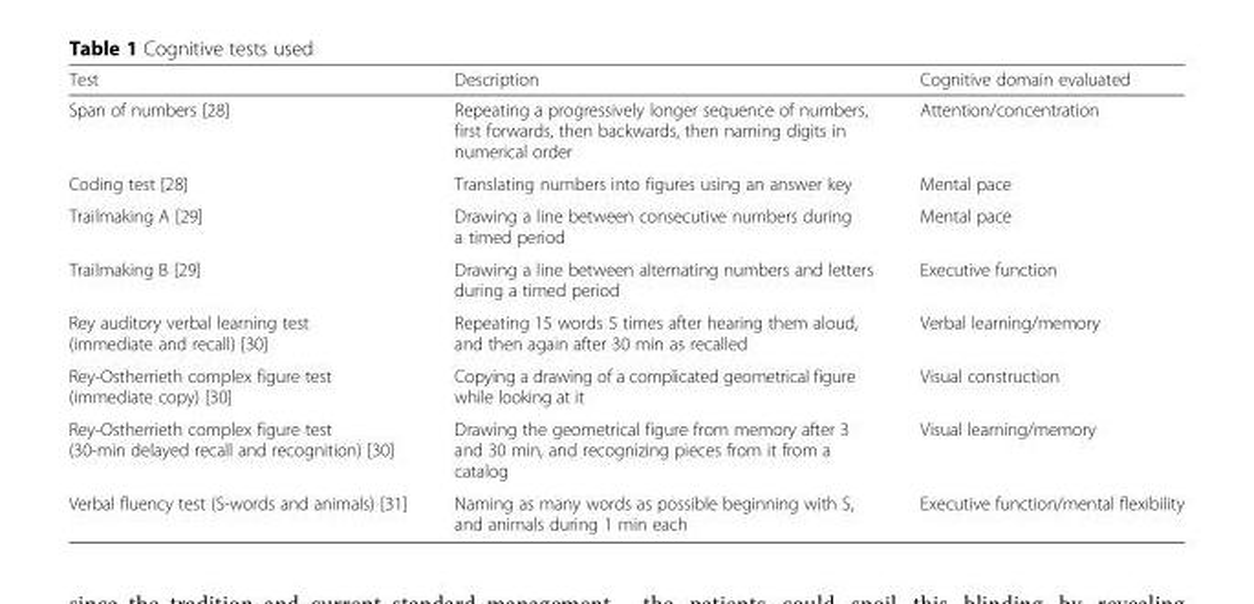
<table><thead><tr><td>Test</td><td>Description</td><td>Cognitive domain evaluated</td></tr></thead><tbody><tr><td>Span of numbers [28]</td><td>Repeating a progressively longer sequence of numbers, first forwards, then backwards, then naming digits in numerical order</td><td>Attention/concentration</td></tr><tr><td>Coding test [28]</td><td>Translating numbers into figures using an answer key</td><td>Mental pace</td></tr><tr><td>Trailmaking A [29]</td><td>Drawing a line between consecutive numbers during a timed period</td><td>Mental pace</td></tr><tr><td>Trailmaking B [29]</td><td>Drawing a line between alternating numbers and letters during a timed period</td><td>Executive function</td></tr><tr><td>Rey auditory verbal learning test (immediate and recall) [30]</td><td>Repeating 15 words 5 times after hearing them aloud, and then again after 30 min as recalled</td><td>Verbal learning/memory</td></tr><tr><td>Rey-Ostherrieth complex figure test (immediate copy) [30]</td><td>Copying a drawing of a complicated geometrical figure while looking at it</td><td>Visual construction</td></tr><tr><td>Rey-Ostherrieth complex figure test (30-min delayed recall and recognition) [30]</td><td>Drawing the geometrical figure from memory after 3 and 30 min, and recognizing pieces from it from a catalog</td><td>Visual learning/memory</td></tr><tr><td>Verbal fluency test (S-words and animals) [31]</td><td>Naming as many words as possible beginning with S, and animals during 1 min each</td><td>Executive function/mental flexibility</td></tr></tbody></table>